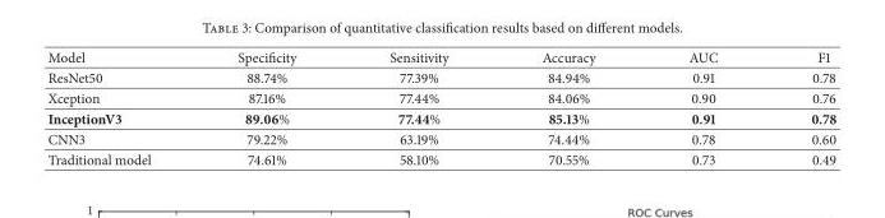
<table><thead><tr><td>Model</td><td>Specificity</td><td>Sensitivity</td><td>Accuracy</td><td>AUC</td><td>F1</td></tr></thead><tbody><tr><td>ResNet50</td><td>88.74%</td><td>77.39%</td><td>84.94%</td><td>0.91</td><td>0.78</td></tr><tr><td>Xception</td><td>87.16%</td><td>77.44%</td><td>84.06%</td><td>0.90</td><td>0.76</td></tr><tr><td>InceptionV3</td><td>89.06%</td><td>77.44%</td><td>85.13%</td><td>0.91</td><td>0.78</td></tr><tr><td>CNN3</td><td>79.22%</td><td>63.19%</td><td>74.44%</td><td>0.78</td><td>0.60</td></tr><tr><td>Traditional model</td><td>74.61%</td><td>58.10%</td><td>70.55%</td><td>0.73</td><td>0.49</td></tr></tbody></table>